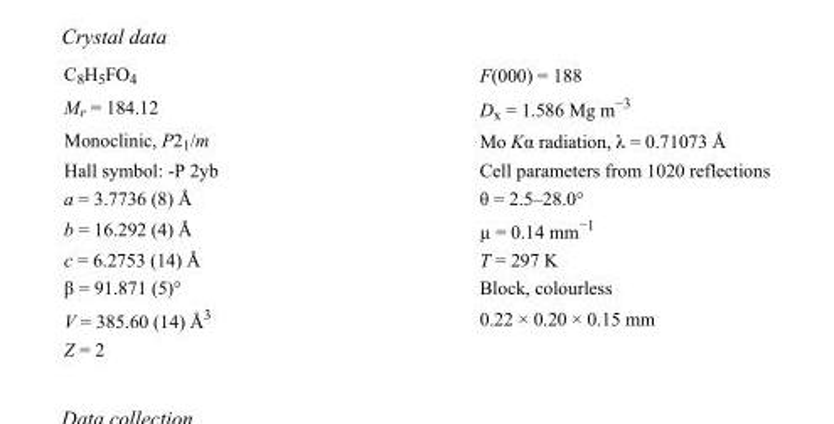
<table><tbody><tr><td>C<sub>8</sub>H<sub>5</sub>FO<sub>4</sub></td><td>F(000) = 188</td></tr><tr><td>M<sub>r</sub> = 184.12</td><td>D<sub>x</sub> = 1.586 Mg m<sup>−3</sup></td></tr><tr><td>Monoclinic, P2<sub>1</sub>/m</td><td>Mo Kα radiation, λ = 0.71073 Å</td></tr><tr><td>Hall symbol: -P 2yb</td><td>Cell parameters from 1020 reflections</td></tr><tr><td>a = 3.7736 (8) Å</td><td>θ = 2.5–28.0°</td></tr><tr><td>b = 16.292 (4) Å</td><td>µ = 0.14 mm<sup>−1</sup></td></tr><tr><td>c = 6.2753 (14) Å</td><td>T = 297 K</td></tr><tr><td>β = 91.871 (5)°</td><td>Block, colourless</td></tr><tr><td>V = 385.60 (14) Å<sup>3</sup></td><td>0.22 × 0.20 × 0.15 mm</td></tr><tr><td>Z = 2</td><td></td></tr></tbody></table>